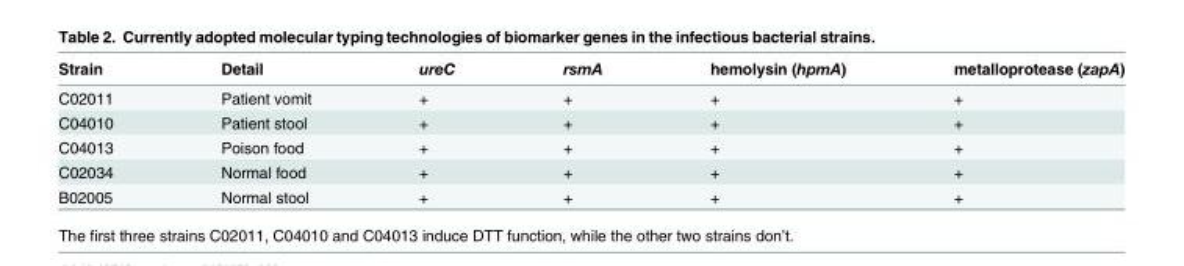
<table><thead><tr><td>Strain</td><td>Detail</td><td>ureC</td><td>rsmA</td><td>hemolysin (hpmA)</td><td>metalloprotease (zapA)</td></tr></thead><tbody><tr><td>C02011</td><td>Patient vomit</td><td>+</td><td>+</td><td>+</td><td>+</td></tr><tr><td>C04010</td><td>Patient stool</td><td>+</td><td>+</td><td>+</td><td>+</td></tr><tr><td>C04013</td><td>Poison food</td><td>+</td><td>+</td><td>+</td><td>+</td></tr><tr><td>C02034</td><td>Normal food</td><td>+</td><td>+</td><td>+</td><td>+</td></tr><tr><td>B02005</td><td>Normal stool</td><td>+</td><td>+</td><td>+</td><td>+</td></tr></tbody></table>